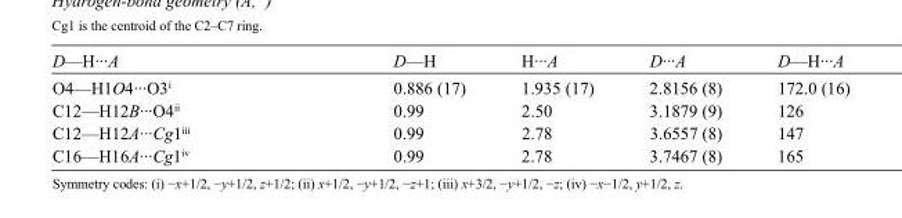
<table><tbody><tr><td>D—H···A</td><td>D—H</td><td>H···A</td><td>D···A</td><td>D—H···A</td></tr><tr><td>O4—H1O4···O3<sup>i</sup></td><td>0.886 (17)</td><td>1.935 (17)</td><td>2.8156 (8)</td><td>172.0 (16)</td></tr><tr><td>C12—H12B···O4<sup>ii</sup></td><td>0.99</td><td>2.50</td><td>3.1879 (9)</td><td>126</td></tr><tr><td>C12—H12A···Cg1<sup>iii</sup></td><td>0.99</td><td>2.78</td><td>3.6557 (8)</td><td>147</td></tr><tr><td>C16—H16A···Cg1<sup>iv</sup></td><td>0.99</td><td>2.78</td><td>3.7467 (8)</td><td>165</td></tr></tbody></table>